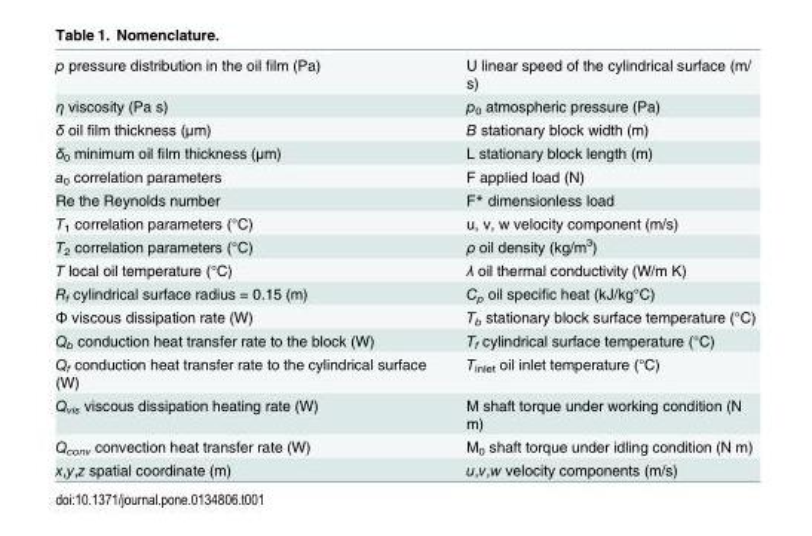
<table><tbody><tr><td>p pressure distribution in the oil film (Pa)</td><td>U linear speed of the cylindrical surface (m/ s)</td></tr><tr><td>η viscosity (Pa s)</td><td>p<sub>0</sub> atmospheric pressure (Pa)</td></tr><tr><td>δ oil film thickness (μm)</td><td>B stationary block width (m)</td></tr><tr><td>δ<sub>0</sub> minimum oil film thickness (μm)</td><td>L stationary block length (m)</td></tr><tr><td>a<sub>0</sub> correlation parameters</td><td>F applied load (N)</td></tr><tr><td>Re the Reynolds number</td><td>F* dimensionless load</td></tr><tr><td>T<sub>1</sub> correlation parameters (°C)</td><td>u, v, w velocity component (m/s)</td></tr><tr><td>T<sub>2</sub> correlation parameters (°C)</td><td>ρ oil density (kg/m<sup>3</sup>)</td></tr><tr><td>T local oil temperature (°C)</td><td>λ oil thermal conductivity (W/m K)</td></tr><tr><td>R<sub>f</sub> cylindrical surface radius = 0.15 (m)</td><td>C<sub>p</sub> oil specific heat (kJ/kg°C)</td></tr><tr><td>Φ viscous dissipation rate (W)</td><td>T<sub>b</sub> stationary block surface temperature (°C)</td></tr><tr><td>Q<sub>b</sub> conduction heat transfer rate to the block (W)</td><td>T<sub>f</sub> cylindrical surface temperature (°C)</td></tr><tr><td>Q<sub>f</sub> conduction heat transfer rate to the cylindrical surface (W)</td><td>T<sub>inlet</sub> oil inlet temperature (°C)</td></tr><tr><td>Q<sub>vis</sub> viscous dissipation heating rate (W)</td><td>M shaft torque under working condition (N m)</td></tr><tr><td>Q<sub>conv</sub> convection heat transfer rate (W)</td><td>M<sub>0</sub> shaft torque under idling condition (N m)</td></tr><tr><td>x,y,z spatial coordinate (m)</td><td>u,v,w velocity components (m/s)</td></tr></tbody></table>